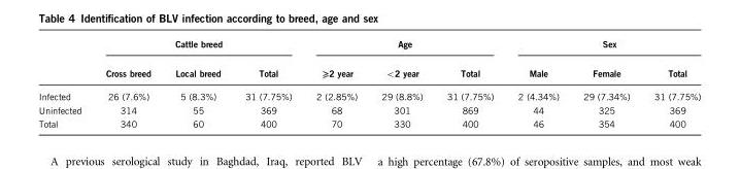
<table><thead><tr><td rowspan="2"></td><td colspan="3">Cattle breed</td><td colspan="3">Age</td><td colspan="3">Sex</td></tr><tr><td>Cross breed</td><td>Local breed</td><td>Total</td><td>⩾2 year</td><td>&lt;2 year</td><td>Total</td><td>Male</td><td>Female</td><td>Total</td></tr></thead><tbody><tr><td>Infected</td><td>26 (7.6%)</td><td>5 (8.3%)</td><td>31 (7.75%)</td><td>2 (2.85%)</td><td>29 (8.8%)</td><td>31 (7.75%)</td><td>2 (4.34%)</td><td>29 (7.34%)</td><td>31 (7.75%)</td></tr><tr><td>Uninfected</td><td>314</td><td>55</td><td>369</td><td>68</td><td>301</td><td>869</td><td>44</td><td>325</td><td>369</td></tr><tr><td>Total</td><td>340</td><td>60</td><td>400</td><td>70</td><td>330</td><td>400</td><td>46</td><td>354</td><td>400</td></tr></tbody></table>